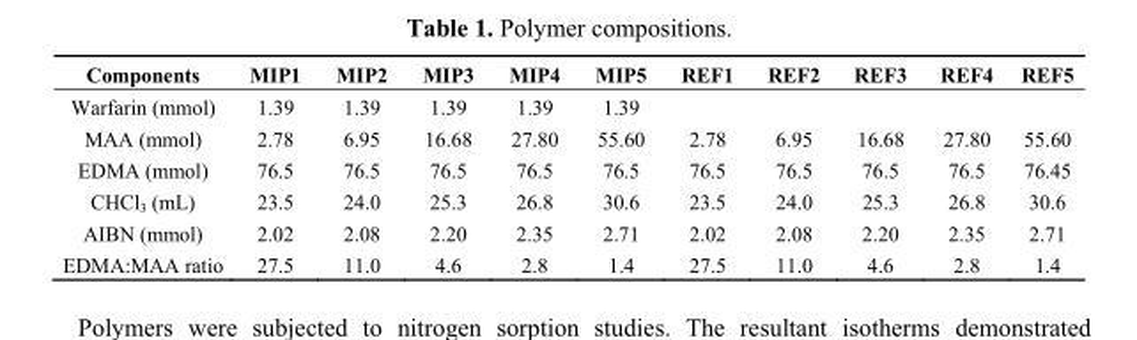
<table><thead><tr><td>Components</td><td>MIP1</td><td>MIP2</td><td>MIP3</td><td>MIP4</td><td>MIP5</td><td>REF1</td><td>REF2</td><td>REF3</td><td>REF4</td><td>REF5</td></tr></thead><tbody><tr><td>Warfarin (mmol)</td><td>1.39</td><td>1.39</td><td>1.39</td><td>1.39</td><td>1.39</td><td></td><td></td><td></td><td></td><td></td></tr><tr><td>MAA (mmol)</td><td>2.78</td><td>6.95</td><td>16.68</td><td>27.80</td><td>55.60</td><td>2.78</td><td>6.95</td><td>16.68</td><td>27.80</td><td>55.60</td></tr><tr><td>EDMA (mmol)</td><td>76.5</td><td>76.5</td><td>76.5</td><td>76.5</td><td>76.5</td><td>76.5</td><td>76.5</td><td>76.5</td><td>76.5</td><td>76.45</td></tr><tr><td>CHCl<sub>3</sub> (mL)</td><td>23.5</td><td>24.0</td><td>25.3</td><td>26.8</td><td>30.6</td><td>23.5</td><td>24.0</td><td>25.3</td><td>26.8</td><td>30.6</td></tr><tr><td>AIBN (mmol)</td><td>2.02</td><td>2.08</td><td>2.20</td><td>2.35</td><td>2.71</td><td>2.02</td><td>2.08</td><td>2.20</td><td>2.35</td><td>2.71</td></tr><tr><td>EDMA:MAA ratio</td><td>27.5</td><td>11.0</td><td>4.6</td><td>2.8</td><td>1.4</td><td>27.5</td><td>11.0</td><td>4.6</td><td>2.8</td><td>1.4</td></tr></tbody></table>